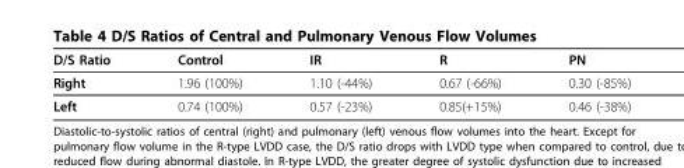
<table><thead><tr><td>D/S Ratio</td><td>Control</td><td>IR</td><td>R</td><td>PN</td></tr></thead><tbody><tr><td>Right</td><td>1.96 (100%)</td><td>1.10 (-44%)</td><td>0.67 (-66%)</td><td>0.30 (-85%)</td></tr><tr><td>Left</td><td>0.74 (100%)</td><td>0.57 (-23%)</td><td>0.85(+15%)</td><td>0.46 (-38%)</td></tr></tbody></table>